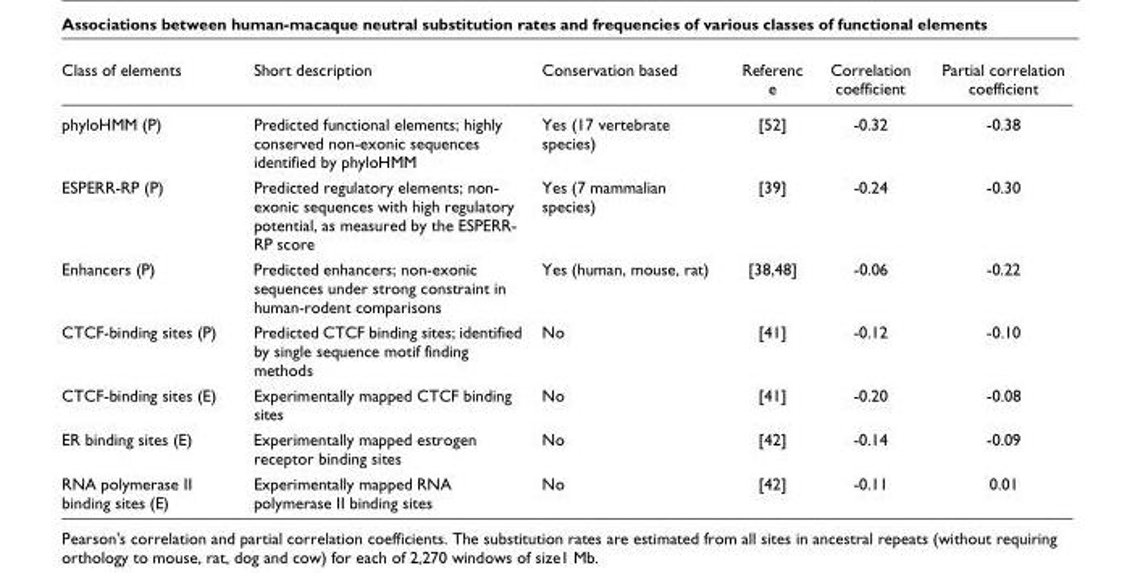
<table><thead><tr><td>Class of elements</td><td>Short description</td><td>Conservation based</td><td>Referenc e</td><td>Correlation coefficient</td><td>Partial correlation coefficient</td></tr></thead><tbody><tr><td>phyloHMM (P)</td><td>Predicted functional elements; highly conserved non-exonic sequences identified by phyloHMM</td><td>Yes (17 vertebrate species)</td><td>[52]</td><td>-0.32</td><td>-0.38</td></tr><tr><td>ESPERR-RP (P)</td><td>Predicted regulatory elements; non- exonic sequences with high regulatory potential, as measured by the ESPERR- RP score</td><td>Yes (7 mammalian species)</td><td>[39]</td><td>-0.24</td><td>-0.30</td></tr><tr><td>Enhancers (P)</td><td>Predicted enhancers; non-exonic sequences under strong constraint in human-rodent comparisons</td><td>Yes (human, mouse, rat)</td><td>[38,48]</td><td>-0.06</td><td>-0.22</td></tr><tr><td>CTCF-binding sites (P)</td><td>Predicted CTCF binding sites; identified by single sequence motif finding methods</td><td>No</td><td>[41]</td><td>-0.12</td><td>-0.10</td></tr><tr><td>CTCF-binding sites (E)</td><td>Experimentally mapped CTCF binding sites</td><td>No</td><td>[41]</td><td>-0.20</td><td>-0.08</td></tr><tr><td>ER binding sites (E)</td><td>Experimentally mapped estrogen receptor binding sites</td><td>No</td><td>[42]</td><td>-0.14</td><td>-0.09</td></tr><tr><td>RNA polymerase II binding sites (E)</td><td>Experimentally mapped RNA polymerase II binding sites</td><td>No</td><td>[42]</td><td>-0.11</td><td>0.01</td></tr></tbody></table>